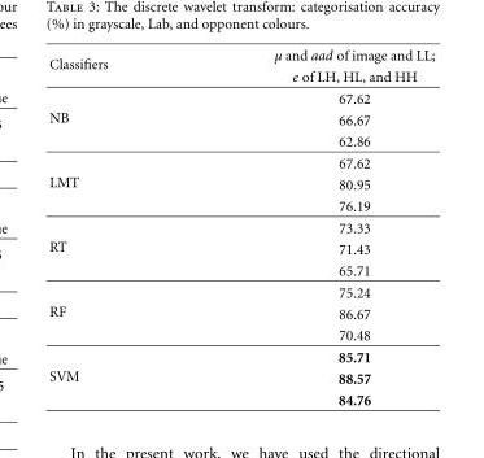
<table><thead><tr><td rowspan="2">Classifiers</td><td rowspan="2">μ and aad of image and LL; e of LH, HL, and HH</td></tr><tr></tr></thead><tbody><tr><td rowspan="3">NB</td><td>67.62</td></tr><tr><td>66.67</td></tr><tr><td>62.86</td></tr><tr><td rowspan="3">LMT</td><td>67.62</td></tr><tr><td>80.95</td></tr><tr><td>76.19</td></tr><tr><td rowspan="3">RT</td><td>73.33</td></tr><tr><td>71.43</td></tr><tr><td>65.71</td></tr><tr><td rowspan="3">RF</td><td>75.24</td></tr><tr><td>86.67</td></tr><tr><td>70.48</td></tr><tr><td rowspan="3">SVM</td><td>85.71</td></tr><tr><td>88.57</td></tr><tr><td>84.76</td></tr></tbody></table>